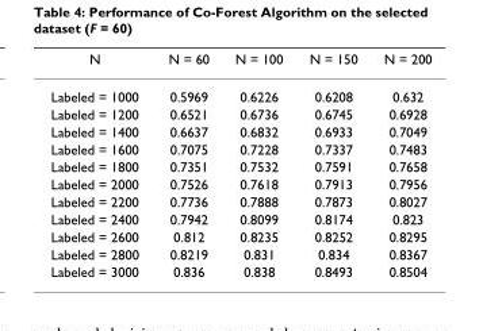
<table><thead><tr><td>N</td><td>N = 60</td><td>N = 100</td><td>N = 150</td><td>N = 200</td></tr></thead><tbody><tr><td>Labeled = 1000</td><td>0.5969</td><td>0.6226</td><td>0.6208</td><td>0.632</td></tr><tr><td>Labeled = 1200</td><td>0.6521</td><td>0.6736</td><td>0.6745</td><td>0.6928</td></tr><tr><td>Labeled = 1400</td><td>0.6637</td><td>0.6832</td><td>0.6933</td><td>0.7049</td></tr><tr><td>Labeled = 1600</td><td>0.7075</td><td>0.7228</td><td>0.7337</td><td>0.7483</td></tr><tr><td>Labeled = 1800</td><td>0.7351</td><td>0.7532</td><td>0.7591</td><td>0.7658</td></tr><tr><td>Labeled = 2000</td><td>0.7526</td><td>0.7618</td><td>0.7913</td><td>0.7956</td></tr><tr><td>Labeled = 2200</td><td>0.7736</td><td>0.7888</td><td>0.7873</td><td>0.8027</td></tr><tr><td>Labeled = 2400</td><td>0.7942</td><td>0.8099</td><td>0.8174</td><td>0.823</td></tr><tr><td>Labeled = 2600</td><td>0.812</td><td>0.8235</td><td>0.8252</td><td>0.8295</td></tr><tr><td>Labeled = 2800</td><td>0.8219</td><td>0.831</td><td>0.834</td><td>0.8367</td></tr><tr><td>Labeled = 3000</td><td>0.836</td><td>0.838</td><td>0.8493</td><td>0.8504</td></tr></tbody></table>